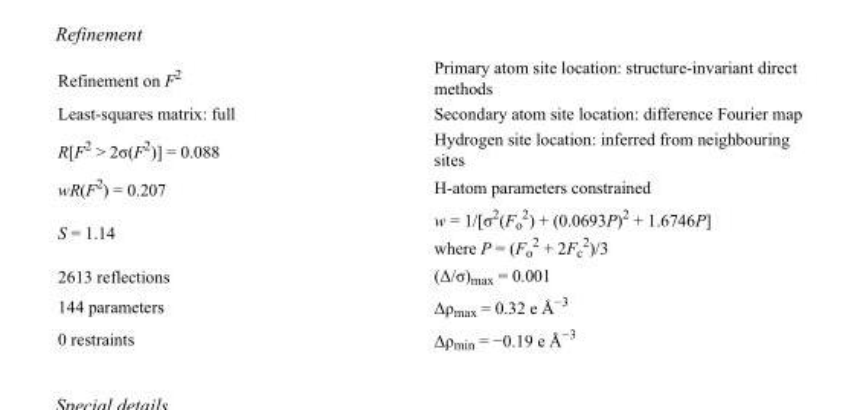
<table><tbody><tr><td>Refinement on F<sup>2</sup></td><td>Primary atom site location: structure-invariant direct methods</td></tr><tr><td>Least-squares matrix: full</td><td>Secondary atom site location: difference Fourier map</td></tr><tr><td>R[F<sup>2</sup> &gt; 2σ(F<sup>2</sup>)] = 0.088</td><td>Hydrogen site location: inferred from neighbouring sites</td></tr><tr><td>wR(F<sup>2</sup>) = 0.207</td><td>H-atom parameters constrained</td></tr><tr><td>S = 1.14</td><td>w = 1/[σ<sup>2</sup>(F<sub>o</sub> <sup>2</sup>) + (0.0693P)<sup>2</sup> + 1.6746P] where P = (F<sub>o</sub> <sup>2</sup> + 2F<sub>c</sub> <sup>2</sup>)/3</td></tr><tr><td>2613 reflections</td><td>(Δ/σ)<sub>max</sub> = 0.001</td></tr><tr><td>144 parameters</td><td>Δρ<sub>max</sub> = 0.32 e Å<sup>−3</sup></td></tr><tr><td>0 restraints</td><td>Δρ<sub>min</sub> = −0.19 e Å<sup>−3</sup></td></tr></tbody></table>